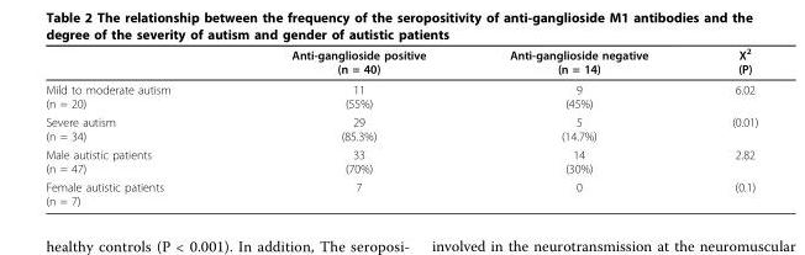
<table><thead><tr><td></td><td>Anti-ganglioside positive (n = 40)</td><td>Anti-ganglioside negative (n = 14)</td><td>X<sup>2</sup> (P)</td></tr></thead><tbody><tr><td>Mild to moderate autism (n = 20)</td><td>11 (55%)</td><td>9 (45%)</td><td>6.02</td></tr><tr><td>Severe autism (n = 34)</td><td>29 (85.3%)</td><td>5 (14.7%)</td><td>(0.01)</td></tr><tr><td>Male autistic patients (n = 47)</td><td>33 (70%)</td><td>14 (30%)</td><td>2.82</td></tr><tr><td>Female autistic patients (n = 7)</td><td>7</td><td>0</td><td>(0.1)</td></tr></tbody></table>